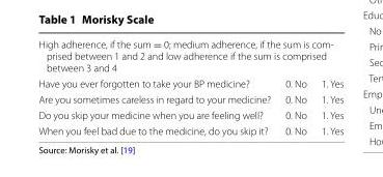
<table><tbody><tr><td colspan="3">High adherence, if the sum = 0; medium adherence, if the sum is com- prised between 1 and 2 and low adherence if the sum is comprised between 3 and 4</td></tr><tr><td>Have you ever forgotten to take your BP medicine?</td><td>0. No</td><td>1. Yes</td></tr><tr><td>Are you sometimes careless in regard to your medicine?</td><td>0. No</td><td>1. Yes</td></tr><tr><td>Do you skip your medicine when you are feeling well?</td><td>0. No</td><td>1. Yes</td></tr><tr><td>When you feel bad due to the medicine, do you skip it?</td><td>0. No</td><td>1. Yes</td></tr></tbody></table>